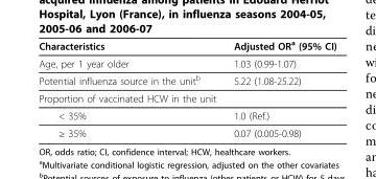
<table><thead><tr><td>Characteristics</td><td>Adjusted OR<sup>a</sup> (95% CI)</td></tr></thead><tbody><tr><td>Age, per 1 year older</td><td>1.03 (0.99-1.07)</td></tr><tr><td>Potential influenza source in the unit<sup>b</sup></td><td>5.22 (1.08-25.22)</td></tr><tr><td colspan="2">Proportion of vaccinated HCW in the unit</td></tr><tr><td>&lt; 35%</td><td>1.0 (Ref.)</td></tr><tr><td>≥ 35%</td><td>0.07 (0.005-0.98)</td></tr></tbody></table>